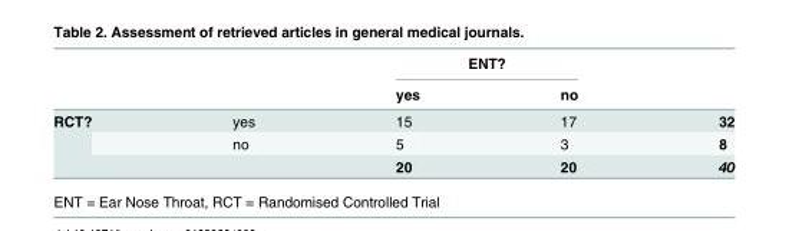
<table><thead><tr><td rowspan="2"></td><td rowspan="2"></td><td colspan="2">ENT?</td><td rowspan="2"></td></tr><tr><td>yes</td><td>no</td></tr></thead><tbody><tr><td rowspan="3">RCT?</td><td>yes</td><td>15</td><td>17</td><td>32</td></tr><tr><td>no</td><td>5</td><td>3</td><td>8</td></tr><tr><td></td><td>20</td><td>20</td><td>40</td></tr></tbody></table>